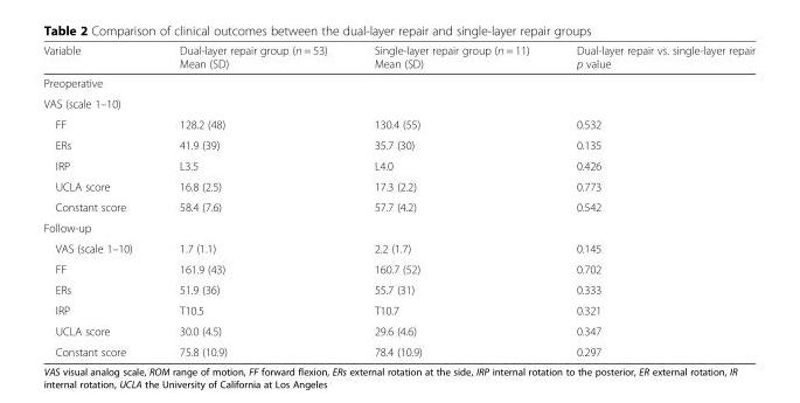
<table><thead><tr><td>Variable</td><td>Dual-layer repair group (n = 53) Mean (SD)</td><td>Single-layer repair group (n = 11) Mean (SD)</td><td>Dual-layer repair vs. single-layer repair p value</td></tr></thead><tbody><tr><td colspan="4">Preoperative</td></tr><tr><td colspan="4">VAS (scale 1–10)</td></tr><tr><td>FF</td><td>128.2 (48)</td><td>130.4 (55)</td><td>0.532</td></tr><tr><td>ERs</td><td>41.9 (39)</td><td>35.7 (30)</td><td>0.135</td></tr><tr><td>IRP</td><td>L3.5</td><td>L4.0</td><td>0.426</td></tr><tr><td>UCLA score</td><td>16.8 (2.5)</td><td>17.3 (2.2)</td><td>0.773</td></tr><tr><td>Constant score</td><td>58.4 (7.6)</td><td>57.7 (4.2)</td><td>0.542</td></tr><tr><td colspan="4">Follow-up</td></tr><tr><td>VAS (scale 1–10)</td><td>1.7 (1.1)</td><td>2.2 (1.7)</td><td>0.145</td></tr><tr><td>FF</td><td>161.9 (43)</td><td>160.7 (52)</td><td>0.702</td></tr><tr><td>ERs</td><td>51.9 (36)</td><td>55.7 (31)</td><td>0.333</td></tr><tr><td>IRP</td><td>T10.5</td><td>T10.7</td><td>0.321</td></tr><tr><td>UCLA score</td><td>30.0 (4.5)</td><td>29.6 (4.6)</td><td>0.347</td></tr><tr><td>Constant score</td><td>75.8 (10.9)</td><td>78.4 (10.9)</td><td>0.297</td></tr></tbody></table>